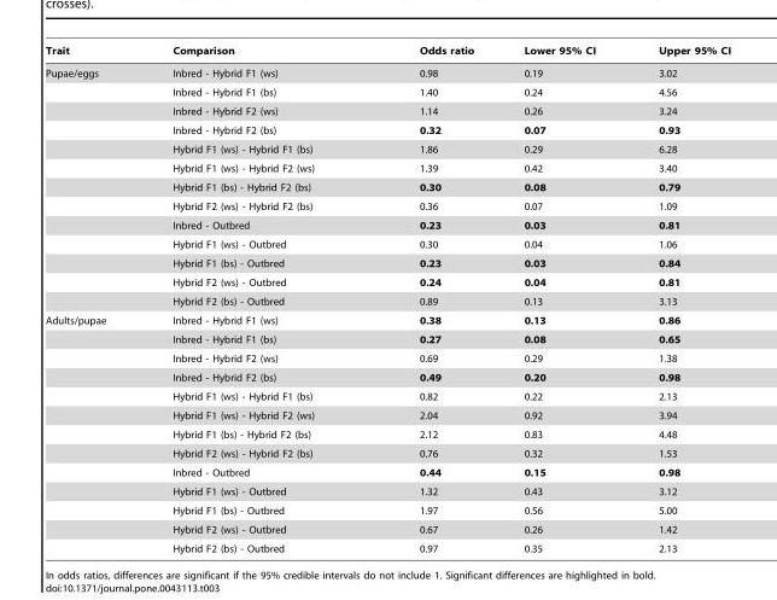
<table><thead><tr><td>Trait</td><td>Comparison</td><td>Odds ratio</td><td>Lower 95% CI</td><td>Upper 95% CI</td></tr></thead><tbody><tr><td rowspan="13">Pupae/eggs</td><td>Inbred - Hybrid F1 (ws)</td><td>0.98</td><td>0.19</td><td>3.02</td></tr><tr><td>Inbred - Hybrid F1 (bs)</td><td>1.40</td><td>0.24</td><td>4.56</td></tr><tr><td>Inbred - Hybrid F2 (ws)</td><td>1.14</td><td>0.26</td><td>3.24</td></tr><tr><td>Inbred - Hybrid F2 (bs)</td><td>0.32</td><td>0.07</td><td>0.93</td></tr><tr><td>Hybrid F1 (ws) - Hybrid F1 (bs)</td><td>1.86</td><td>0.29</td><td>6.28</td></tr><tr><td>Hybrid F1 (ws) - Hybrid F2 (ws)</td><td>1.39</td><td>0.42</td><td>3.40</td></tr><tr><td>Hybrid F1 (bs) - Hybrid F2 (bs)</td><td>0.30</td><td>0.08</td><td>0.79</td></tr><tr><td>Hybrid F2 (ws) - Hybrid F2 (bs)</td><td>0.36</td><td>0.07</td><td>1.09</td></tr><tr><td>Inbred - Outbred</td><td>0.23</td><td>0.03</td><td>0.81</td></tr><tr><td>Hybrid F1 (ws) - Outbred</td><td>0.30</td><td>0.04</td><td>1.06</td></tr><tr><td>Hybrid F1 (bs) - Outbred</td><td>0.23</td><td>0.03</td><td>0.84</td></tr><tr><td>Hybrid F2 (ws) - Outbred</td><td>0.24</td><td>0.04</td><td>0.81</td></tr><tr><td>Hybrid F2 (bs) - Outbred</td><td>0.89</td><td>0.13</td><td>3.13</td></tr><tr><td rowspan="13">Adults/pupae</td><td>Inbred - Hybrid F1 (ws)</td><td>0.38</td><td>0.13</td><td>0.86</td></tr><tr><td>Inbred - Hybrid F1 (bs)</td><td>0.27</td><td>0.08</td><td>0.65</td></tr><tr><td>Inbred - Hybrid F2 (ws)</td><td>0.69</td><td>0.29</td><td>1.38</td></tr><tr><td>Inbred - Hybrid F2 (bs)</td><td>0.49</td><td>0.20</td><td>0.98</td></tr><tr><td>Hybrid F1 (ws) - Hybrid F1 (bs)</td><td>0.82</td><td>0.22</td><td>2.13</td></tr><tr><td>Hybrid F1 (ws) - Hybrid F2 (ws)</td><td>2.04</td><td>0.92</td><td>3.94</td></tr><tr><td>Hybrid F1 (bs) - Hybrid F2 (bs)</td><td>2.12</td><td>0.83</td><td>4.48</td></tr><tr><td>Hybrid F2 (ws) - Hybrid F2 (bs)</td><td>0.76</td><td>0.32</td><td>1.53</td></tr><tr><td>Inbred - Outbred</td><td>0.44</td><td>0.15</td><td>0.98</td></tr><tr><td>Hybrid F1 (ws) - Outbred</td><td>1.32</td><td>0.43</td><td>3.12</td></tr><tr><td>Hybrid F1 (bs) - Outbred</td><td>1.97</td><td>0.56</td><td>5.00</td></tr><tr><td>Hybrid F2 (ws) - Outbred</td><td>0.67</td><td>0.26</td><td>1.42</td></tr><tr><td>Hybrid F2 (bs) - Outbred</td><td>0.97</td><td>0.35</td><td>2.13</td></tr></tbody></table>